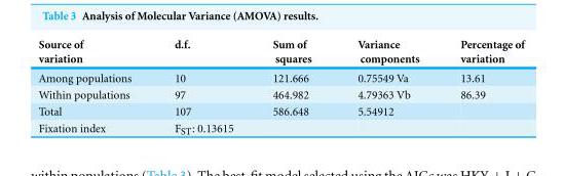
<table><thead><tr><td>Source of variation</td><td>d.f.</td><td>Sum of squares</td><td>Variance components</td><td>Percentage of variation</td></tr></thead><tbody><tr><td>Among populations</td><td>10</td><td>121.666</td><td>0.75549 Va</td><td>13.61</td></tr><tr><td>Within populations</td><td>97</td><td>464.982</td><td>4.79363 Vb</td><td>86.39</td></tr><tr><td>Total</td><td>107</td><td>586.648</td><td>5.54912</td><td></td></tr><tr><td>Fixation index</td><td>F<sub>ST</sub>: 0.13615</td><td></td><td></td><td></td></tr></tbody></table>